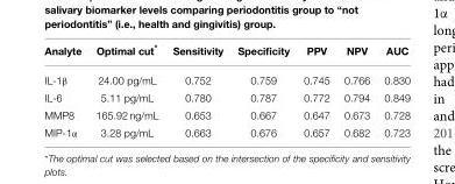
<table><thead><tr><td>Analyte</td><td>Optimal cut*</td><td>Sensitivity</td><td>Specificity</td><td>PPV</td><td>NPV</td><td>AUC</td></tr></thead><tbody><tr><td>IL-1β</td><td>24.00 pg/mL</td><td>0.752</td><td>0.759</td><td>0.745</td><td>0.766</td><td>0.830</td></tr><tr><td>IL-6</td><td>5.11 pg/mL</td><td>0.780</td><td>0.787</td><td>0.772</td><td>0.794</td><td>0.849</td></tr><tr><td>MMP8</td><td>165.92 ng/mL</td><td>0.653</td><td>0.667</td><td>0.647</td><td>0.673</td><td>0.728</td></tr><tr><td>MIP-1α</td><td>3.28 pg/mL</td><td>0.663</td><td>0.676</td><td>0.657</td><td>0.682</td><td>0.723</td></tr></tbody></table>